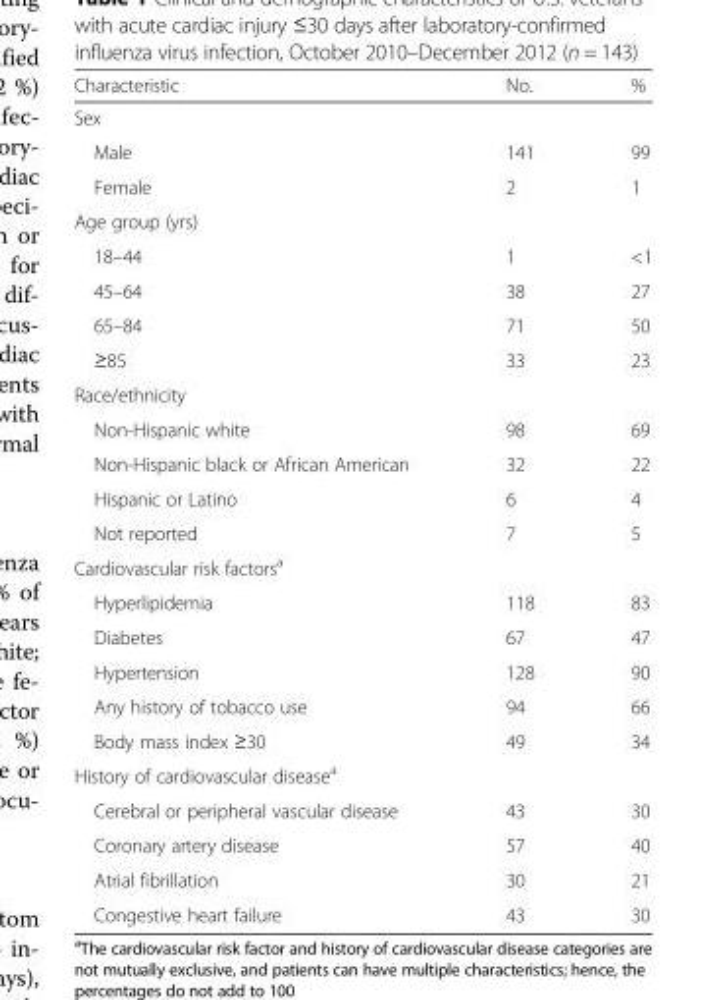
<table><thead><tr><td>Characteristic</td><td>No.</td><td>%</td></tr></thead><tbody><tr><td colspan="3">Sex</td></tr><tr><td>Male</td><td>141</td><td>99</td></tr><tr><td>Female</td><td>2</td><td>1</td></tr><tr><td colspan="3">Age group (yrs)</td></tr><tr><td>18–44</td><td>1</td><td>&lt;1</td></tr><tr><td>45–64</td><td>38</td><td>27</td></tr><tr><td>65–84</td><td>71</td><td>50</td></tr><tr><td>≥85</td><td>33</td><td>23</td></tr><tr><td colspan="3">Race/ethnicity</td></tr><tr><td>Non-Hispanic white</td><td>98</td><td>69</td></tr><tr><td>Non-Hispanic black or African American</td><td>32</td><td>22</td></tr><tr><td>Hispanic or Latino</td><td>6</td><td>4</td></tr><tr><td>Not reported</td><td>7</td><td>5</td></tr><tr><td colspan="3">Cardiovascular risk factors<sup>a</sup></td></tr><tr><td>Hyperlipidemia</td><td>118</td><td>83</td></tr><tr><td>Diabetes</td><td>67</td><td>47</td></tr><tr><td>Hypertension</td><td>128</td><td>90</td></tr><tr><td>Any history of tobacco use</td><td>94</td><td>66</td></tr><tr><td>Body mass index ≥30</td><td>49</td><td>34</td></tr><tr><td colspan="3">History of cardiovascular disease<sup>a</sup></td></tr><tr><td>Cerebral or peripheral vascular disease</td><td>43</td><td>30</td></tr><tr><td>Coronary artery disease</td><td>57</td><td>40</td></tr><tr><td>Atrial fibrillation</td><td>30</td><td>21</td></tr><tr><td>Congestive heart failure</td><td>43</td><td>30</td></tr></tbody></table>